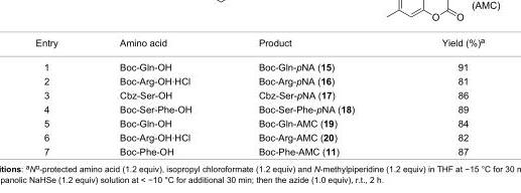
<table><tbody><tr><td>Entry</td><td>Amino acid</td><td>Product</td><td>Yield (%)<sup>a</sup></td></tr><tr><td>1</td><td>Boc-Gln-OH</td><td>Boc-Gln-pNA (15)</td><td>91</td></tr><tr><td>2</td><td>Boc-Arg-OH·HCl</td><td>Boc-Arg-pNA (16)</td><td>81</td></tr><tr><td>3</td><td>Cbz-Ser-OH</td><td>Cbz-Ser-pNA (17)</td><td>86</td></tr><tr><td>4</td><td>Boc-Ser-Phe-OH</td><td>Boc-Ser-Phe-pNA (18)</td><td>89</td></tr><tr><td>5</td><td>Boc-Gln-OH</td><td>Boc-Gln-AMC (19)</td><td>84</td></tr><tr><td>6</td><td>Boc-Arg-OH·HCl</td><td>Boc-Arg-AMC (20)</td><td>82</td></tr><tr><td>7</td><td>Boc-Phe-OH</td><td>Boc-Phe-AMC (11)</td><td>87</td></tr></tbody></table>